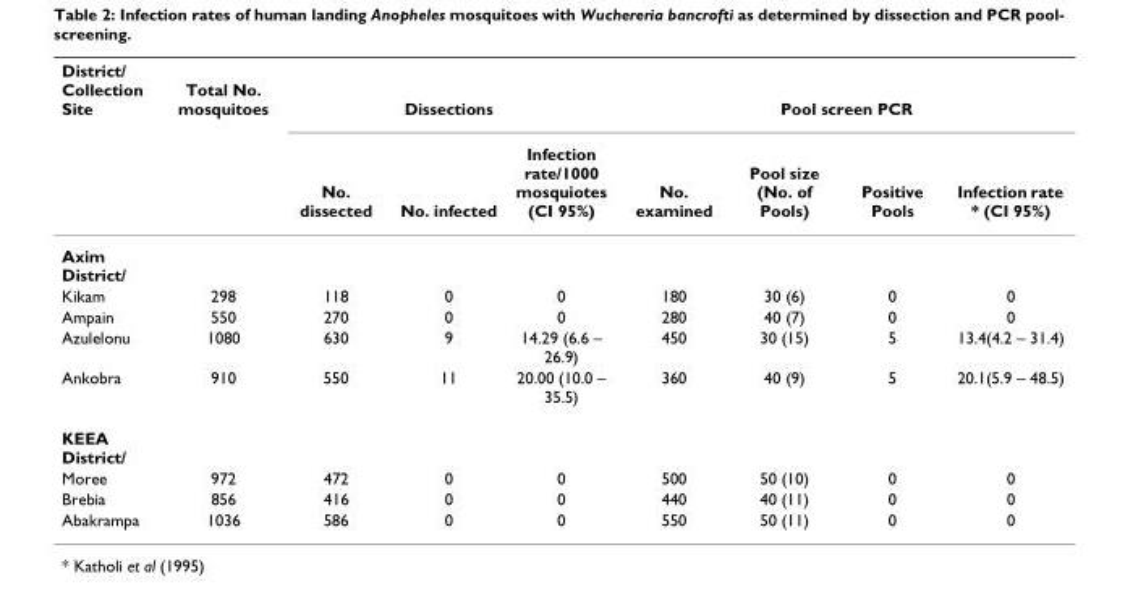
<table><thead><tr><td rowspan="2">District/ Collection Site</td><td rowspan="2">Total No. mosquitoes</td><td colspan="3">Dissections</td><td colspan="4">Pool screen PCR</td></tr><tr><td>No. dissected</td><td>No. infected</td><td>Infection rate/1000 mosquiotes (CI 95%)</td><td>No. examined</td><td>Pool size (No. of Pools)</td><td>Positive Pools</td><td>Infection rate * (CI 95%)</td></tr></thead><tbody><tr><td colspan="9">Axim District/</td></tr><tr><td>Kikam</td><td>298</td><td>118</td><td>0</td><td>0</td><td>180</td><td>30 (6)</td><td>0</td><td>0</td></tr><tr><td>Ampain</td><td>550</td><td>270</td><td>0</td><td>0</td><td>280</td><td>40 (7)</td><td>0</td><td>0</td></tr><tr><td>Azulelonu</td><td>1080</td><td>630</td><td>9</td><td>14.29 (6.6 – 26.9)</td><td>450</td><td>30 (15)</td><td>5</td><td>13.4(4.2 – 31.4)</td></tr><tr><td>Ankobra</td><td>910</td><td>550</td><td>11</td><td>20.00 (10.0 – 35.5)</td><td>360</td><td>40 (9)</td><td>5</td><td>20.1(5.9 – 48.5)</td></tr><tr><td colspan="9">KEEA District/</td></tr><tr><td>Moree</td><td>972</td><td>472</td><td>0</td><td>0</td><td>500</td><td>50 (10)</td><td>0</td><td>0</td></tr><tr><td>Brebia</td><td>856</td><td>416</td><td>0</td><td>0</td><td>440</td><td>40 (11)</td><td>0</td><td>0</td></tr><tr><td>Abakrampa</td><td>1036</td><td>586</td><td>0</td><td>0</td><td>550</td><td>50 (11)</td><td>0</td><td>0</td></tr></tbody></table>